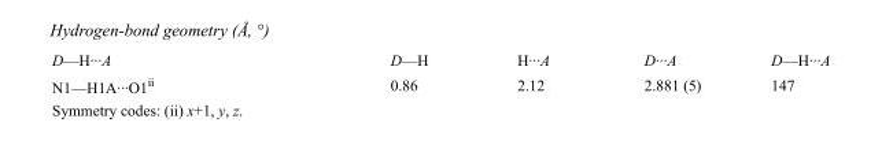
<table><tbody><tr><td>D—H···A</td><td>D—H</td><td>H···A</td><td>D···A</td><td>D—H···A</td></tr><tr><td>N1—H1A···O1<sup>ii</sup></td><td>0.86</td><td>2.12</td><td>2.881 (5)</td><td>147</td></tr></tbody></table>